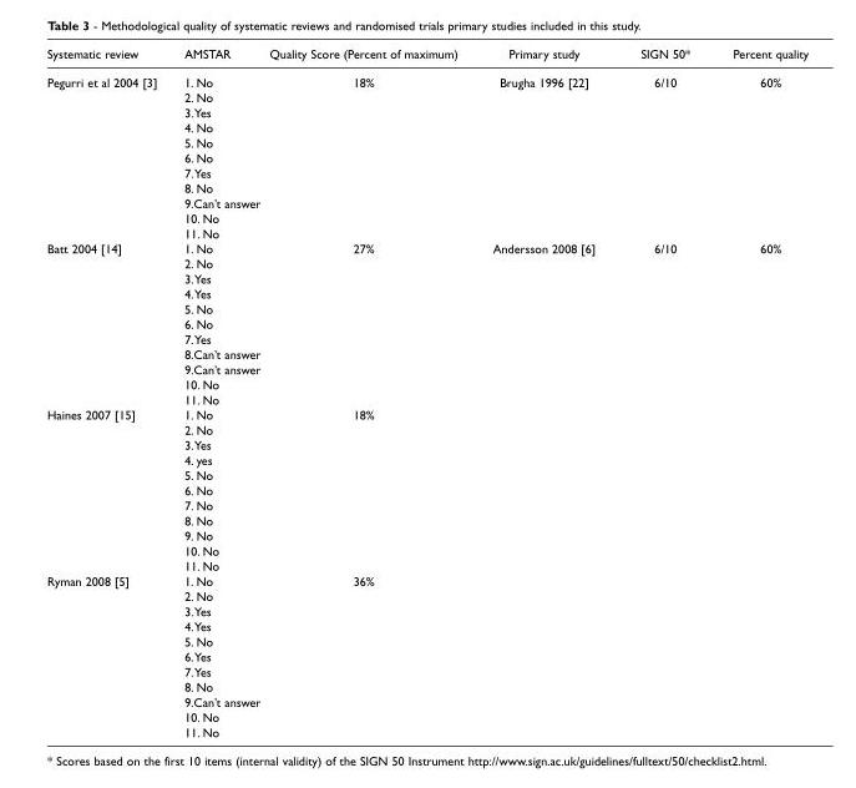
<table><thead><tr><td>Systematic review</td><td>AMSTAR</td><td>Quality Score (Percent of maximum)</td><td>Primary study</td><td>SIGN 50*</td><td>Percent quality</td></tr></thead><tbody><tr><td rowspan="11">Pegurri et al 2004 [3]</td><td>1. No</td><td>18%</td><td>Brugha 1996 [22]</td><td>6/10</td><td>60%</td></tr><tr><td>2. No</td><td></td><td></td><td></td><td></td></tr><tr><td>3.Yes</td><td></td><td></td><td></td><td></td></tr><tr><td>4. No</td><td></td><td></td><td></td><td></td></tr><tr><td>5. No</td><td></td><td></td><td></td><td></td></tr><tr><td>6. No</td><td></td><td></td><td></td><td></td></tr><tr><td>7.Yes</td><td></td><td></td><td></td><td></td></tr><tr><td>8. No</td><td></td><td></td><td></td><td></td></tr><tr><td>9.Can’t answer</td><td></td><td></td><td></td><td></td></tr><tr><td>10. No</td><td></td><td></td><td></td><td></td></tr><tr><td>11. No</td><td></td><td></td><td></td><td></td></tr><tr><td rowspan="11">Batt 2004 [14]</td><td>1. No</td><td>27%</td><td>Andersson 2008 [6]</td><td>6/10</td><td>60%</td></tr><tr><td>2. No</td><td></td><td></td><td></td><td></td></tr><tr><td>3.Yes</td><td></td><td></td><td></td><td></td></tr><tr><td>4.Yes</td><td></td><td></td><td></td><td></td></tr><tr><td>5. No</td><td></td><td></td><td></td><td></td></tr><tr><td>6. No</td><td></td><td></td><td></td><td></td></tr><tr><td>7.Yes</td><td></td><td></td><td></td><td></td></tr><tr><td>8.Can’t answer</td><td></td><td></td><td></td><td></td></tr><tr><td>9.Can’t answer</td><td></td><td></td><td></td><td></td></tr><tr><td>10. No</td><td></td><td></td><td></td><td></td></tr><tr><td>11. No</td><td></td><td></td><td></td><td></td></tr><tr><td rowspan="11">Haines 2007 [15]</td><td>1. No</td><td>18%</td><td></td><td></td><td></td></tr><tr><td>2. No</td><td></td><td></td><td></td><td></td></tr><tr><td>3.Yes</td><td></td><td></td><td></td><td></td></tr><tr><td>4. yes</td><td></td><td></td><td></td><td></td></tr><tr><td>5. No</td><td></td><td></td><td></td><td></td></tr><tr><td>6. No</td><td></td><td></td><td></td><td></td></tr><tr><td>7. No</td><td></td><td></td><td></td><td></td></tr><tr><td>8. No</td><td></td><td></td><td></td><td></td></tr><tr><td>9. No</td><td></td><td></td><td></td><td></td></tr><tr><td>10. No</td><td></td><td></td><td></td><td></td></tr><tr><td>11. No</td><td></td><td></td><td></td><td></td></tr><tr><td rowspan="11">Ryman 2008 [5]</td><td>1. No</td><td>36%</td><td></td><td></td><td></td></tr><tr><td>2. No</td><td></td><td></td><td></td><td></td></tr><tr><td>3.Yes</td><td></td><td></td><td></td><td></td></tr><tr><td>4.Yes</td><td></td><td></td><td></td><td></td></tr><tr><td>5. No</td><td></td><td></td><td></td><td></td></tr><tr><td>6.Yes</td><td></td><td></td><td></td><td></td></tr><tr><td>7.Yes</td><td></td><td></td><td></td><td></td></tr><tr><td>8. No</td><td></td><td></td><td></td><td></td></tr><tr><td>9.Can’t answer</td><td></td><td></td><td></td><td></td></tr><tr><td>10. No</td><td></td><td></td><td></td><td></td></tr><tr><td>11. No</td><td></td><td></td><td></td><td></td></tr></tbody></table>